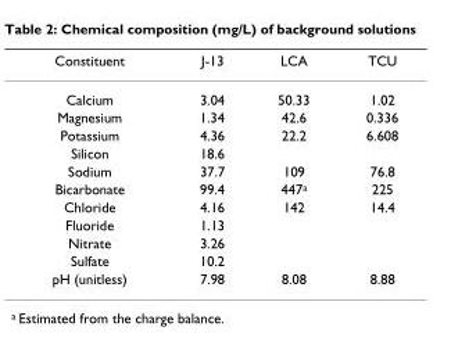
<table><thead><tr><td>Constituent</td><td>J-13</td><td>LCA</td><td>TCU</td></tr></thead><tbody><tr><td>Calcium</td><td>3.04</td><td>50.33</td><td>1.02</td></tr><tr><td>Magnesium</td><td>1.34</td><td>42.6</td><td>0.336</td></tr><tr><td>Potassium</td><td>4.36</td><td>22.2</td><td>6.608</td></tr><tr><td>Silicon</td><td>18.6</td><td></td><td></td></tr><tr><td>Sodium</td><td>37.7</td><td>109</td><td>76.8</td></tr><tr><td>Bicarbonate</td><td>99.4</td><td>447<sup>a</sup></td><td>225</td></tr><tr><td>Chloride</td><td>4.16</td><td>142</td><td>14.4</td></tr><tr><td>Fluoride</td><td>1.13</td><td></td><td></td></tr><tr><td>Nitrate</td><td>3.26</td><td></td><td></td></tr><tr><td>Sulfate</td><td>10.2</td><td></td><td></td></tr><tr><td>pH (unitless)</td><td>7.98</td><td>8.08</td><td>8.88</td></tr></tbody></table>